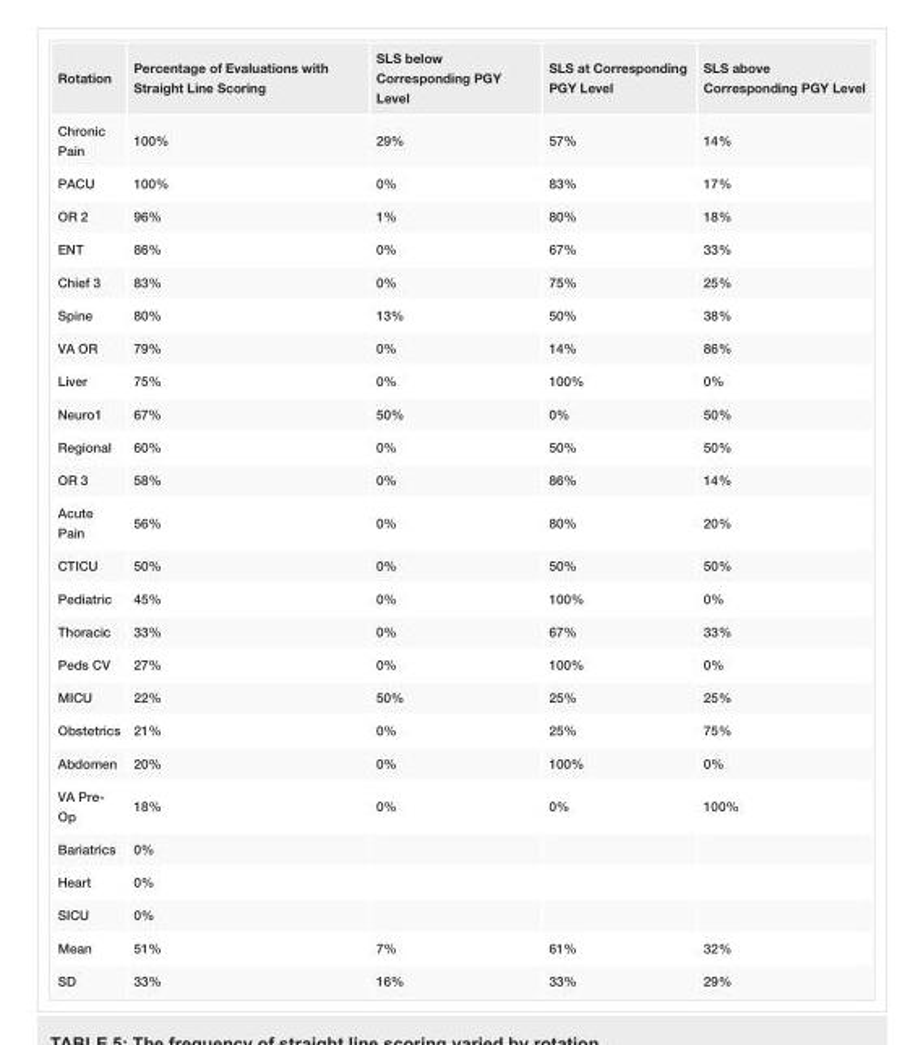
<table><tbody><tr><td>Rotation</td><td>Percentage of Evaluations with Straight Line Scoring</td><td>SLS below Corresponding PGY Level</td><td>SLS at Corresponding PGY Level</td><td>SLS above Corresponding PGY Level</td></tr><tr><td>Chronic Pain</td><td>100%</td><td>29%</td><td>57%</td><td>14%</td></tr><tr><td>PACU</td><td>100%</td><td>0%</td><td>83%</td><td>17%</td></tr><tr><td>OR 2</td><td>96%</td><td>1%</td><td>80%</td><td>18%</td></tr><tr><td>ENT</td><td>86%</td><td>0%</td><td>67%</td><td>33%</td></tr><tr><td>Chief 3</td><td>83%</td><td>0%</td><td>75%</td><td>25%</td></tr><tr><td>Spine</td><td>80%</td><td>13%</td><td>50%</td><td>38%</td></tr><tr><td>VA OR</td><td>79%</td><td>0%</td><td>14%</td><td>86%</td></tr><tr><td>Liver</td><td>75%</td><td>0%</td><td>100%</td><td>0%</td></tr><tr><td>Neuro1</td><td>67%</td><td>50%</td><td>0%</td><td>50%</td></tr><tr><td>Regional</td><td>60%</td><td>0%</td><td>50%</td><td>50%</td></tr><tr><td>OR 3</td><td>58%</td><td>0%</td><td>86%</td><td>14%</td></tr><tr><td>Acute Pain</td><td>56%</td><td>0%</td><td>80%</td><td>20%</td></tr><tr><td>CTICU</td><td>50%</td><td>0%</td><td>50%</td><td>50%</td></tr><tr><td>Pediatric</td><td>45%</td><td>0%</td><td>100%</td><td>0%</td></tr><tr><td>Thoracic</td><td>33%</td><td>0%</td><td>67%</td><td>33%</td></tr><tr><td>Peds CV</td><td>27%</td><td>0%</td><td>100%</td><td>0%</td></tr><tr><td>MICU</td><td>22%</td><td>50%</td><td>25%</td><td>25%</td></tr><tr><td>Obstetrics</td><td>21%</td><td>0%</td><td>25%</td><td>75%</td></tr><tr><td>Abdomen</td><td>20%</td><td>0%</td><td>100%</td><td>0%</td></tr><tr><td>VA Pre- Op</td><td>18%</td><td>0%</td><td>0%</td><td>100%</td></tr><tr><td>Bariatrics</td><td>0%</td><td></td><td></td><td></td></tr><tr><td>Heart</td><td>0%</td><td></td><td></td><td></td></tr><tr><td>SICU</td><td>0%</td><td></td><td></td><td></td></tr><tr><td>Mean</td><td>51%</td><td>7%</td><td>61%</td><td>32%</td></tr><tr><td>SD</td><td>33%</td><td>16%</td><td>33%</td><td>29%</td></tr></tbody></table>